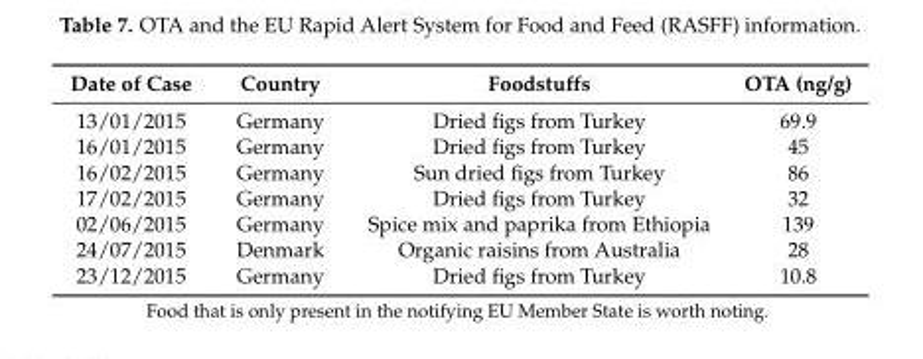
<table><thead><tr><td>Date of Case</td><td>Country</td><td>Foodstuffs</td><td>OTA (ng/g)</td></tr></thead><tbody><tr><td>13/01/2015</td><td>Germany</td><td>Dried figs from Turkey</td><td>69.9</td></tr><tr><td>16/01/2015</td><td>Germany</td><td>Dried figs from Turkey</td><td>45</td></tr><tr><td>16/02/2015</td><td>Germany</td><td>Sun dried figs from Turkey</td><td>86</td></tr><tr><td>17/02/2015</td><td>Germany</td><td>Dried figs from Turkey</td><td>32</td></tr><tr><td>02/06/2015</td><td>Germany</td><td>Spice mix and paprika from Ethiopia</td><td>139</td></tr><tr><td>24/07/2015</td><td>Denmark</td><td>Organic raisins from Australia</td><td>28</td></tr><tr><td>23/12/2015</td><td>Germany</td><td>Dried figs from Turkey</td><td>10.8</td></tr></tbody></table>